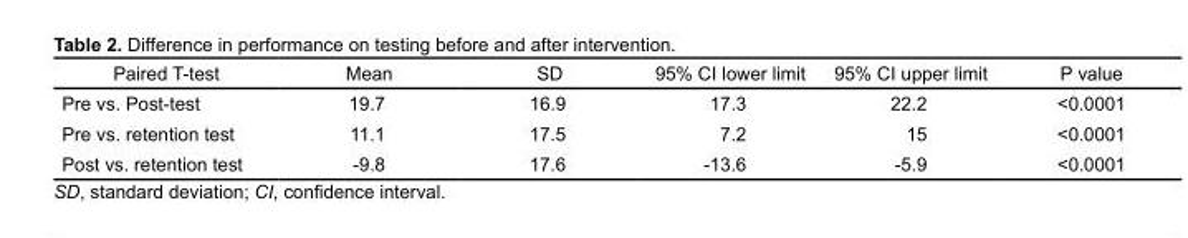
<table><thead><tr><td>Paired T-test</td><td>Mean</td><td>SD</td><td>95% CI lower limit</td><td>95% CI upper limit</td><td>P value</td></tr></thead><tbody><tr><td>Pre vs. Post-test</td><td>19.7</td><td>16.9</td><td>17.3</td><td>22.2</td><td>&lt;0.0001</td></tr><tr><td>Pre vs. retention test</td><td>11.1</td><td>17.5</td><td>7.2</td><td>15</td><td>&lt;0.0001</td></tr><tr><td>Post vs. retention test</td><td>-9.8</td><td>17.6</td><td>-13.6</td><td>-5.9</td><td>&lt;0.0001</td></tr></tbody></table>